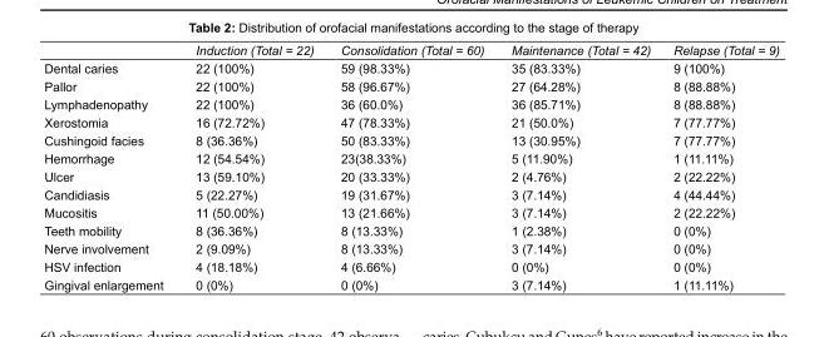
<table><thead><tr><td></td><td>Induction (Total = 22)</td><td>Consolidation (Total = 60)</td><td>Maintenance (Total = 42)</td><td>Relapse (Total = 9)</td></tr></thead><tbody><tr><td>Dental caries</td><td>22 (100%)</td><td>59 (98.33%)</td><td>35 (83.33%)</td><td>9 (100%)</td></tr><tr><td>Pallor</td><td>22 (100%)</td><td>58 (96.67%)</td><td>27 (64.28%)</td><td>8 (88.88%)</td></tr><tr><td>Lymphadenopathy</td><td>22 (100%)</td><td>36 (60.0%)</td><td>36 (85.71%)</td><td>8 (88.88%)</td></tr><tr><td>Xerostomia</td><td>16 (72.72%)</td><td>47 (78.33%)</td><td>21 (50.0%)</td><td>7 (77.77%)</td></tr><tr><td>Cushingoid facies</td><td>8 (36.36%)</td><td>50 (83.33%)</td><td>13 (30.95%)</td><td>7 (77.77%)</td></tr><tr><td>Hemorrhage</td><td>12 (54.54%)</td><td>23(38.33%)</td><td>5 (11.90%)</td><td>1 (11.11%)</td></tr><tr><td>Ulcer</td><td>13 (59.10%)</td><td>20 (33.33%)</td><td>2 (4.76%)</td><td>2 (22.22%)</td></tr><tr><td>Candidiasis</td><td>5 (22.27%)</td><td>19 (31.67%)</td><td>3 (7.14%)</td><td>4 (44.44%)</td></tr><tr><td>Mucositis</td><td>11 (50.00%)</td><td>13 (21.66%)</td><td>3 (7.14%)</td><td>2 (22.22%)</td></tr><tr><td>Teeth mobility</td><td>8 (36.36%)</td><td>8 (13.33%)</td><td>1 (2.38%)</td><td>0 (0%)</td></tr><tr><td>Nerve involvement</td><td>2 (9.09%)</td><td>8 (13.33%)</td><td>3 (7.14%)</td><td>0 (0%)</td></tr><tr><td>HSV infection</td><td>4 (18.18%)</td><td>4 (6.66%)</td><td>0 (0%)</td><td>0 (0%)</td></tr><tr><td>Gingival enlargement</td><td>0 (0%)</td><td>0 (0%)</td><td>3 (7.14%)</td><td>1 (11.11%)</td></tr></tbody></table>